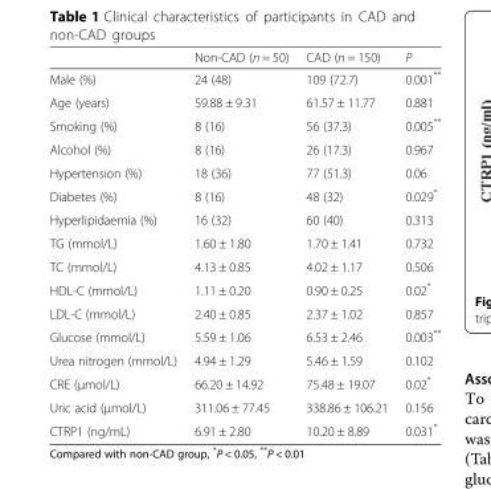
<table><thead><tr><td></td><td>Non-CAD (n = 50)</td><td>CAD (n = 150)</td><td>P</td></tr></thead><tbody><tr><td>Male (%)</td><td>24 (48)</td><td>109 (72.7)</td><td>0.001**</td></tr><tr><td>Age (years)</td><td>59.88 ± 9.31</td><td>61.57 ± 11.77</td><td>0.881</td></tr><tr><td>Smoking (%)</td><td>8 (16)</td><td>56 (37.3)</td><td>0.005**</td></tr><tr><td>Alcohol (%)</td><td>8 (16)</td><td>26 (17.3)</td><td>0.967</td></tr><tr><td>Hypertension (%)</td><td>18 (36)</td><td>77 (51.3)</td><td>0.06</td></tr><tr><td>Diabetes (%)</td><td>8 (16)</td><td>48 (32)</td><td>0.029*</td></tr><tr><td>Hyperlipidaemia (%)</td><td>16 (32)</td><td>60 (40)</td><td>0.313</td></tr><tr><td>TG (mmol/L)</td><td>1.60 ± 1.80</td><td>1.70 ± 1.41</td><td>0.732</td></tr><tr><td>TC (mmol/L)</td><td>4.13 ± 0.85</td><td>4.02 ± 1.17</td><td>0.506</td></tr><tr><td>HDL-C (mmol/L)</td><td>1.11 ± 0.20</td><td>0.90 ± 0.25</td><td>0.02*</td></tr><tr><td>LDL-C (mmol/L)</td><td>2.40 ± 0.85</td><td>2.37 ± 1.02</td><td>0.857</td></tr><tr><td>Glucose (mmol/L)</td><td>5.59 ± 1.06</td><td>6.53 ± 2.46</td><td>0.003**</td></tr><tr><td>Urea nitrogen (mmol/L)</td><td>4.94 ± 1.29</td><td>5.46 ± 1.59</td><td>0.102</td></tr><tr><td>CRE (μmol/L)</td><td>66.20 ± 14.92</td><td>75.48 ± 19.07</td><td>0.02*</td></tr><tr><td>Uric acid (μmol/L)</td><td>311.06 ± 77.45</td><td>338.86 ± 106.21</td><td>0.156</td></tr><tr><td>CTRP1 (ng/mL)</td><td>6.91 ± 2.80</td><td>10.20 ± 8.89</td><td>0.031*</td></tr></tbody></table>